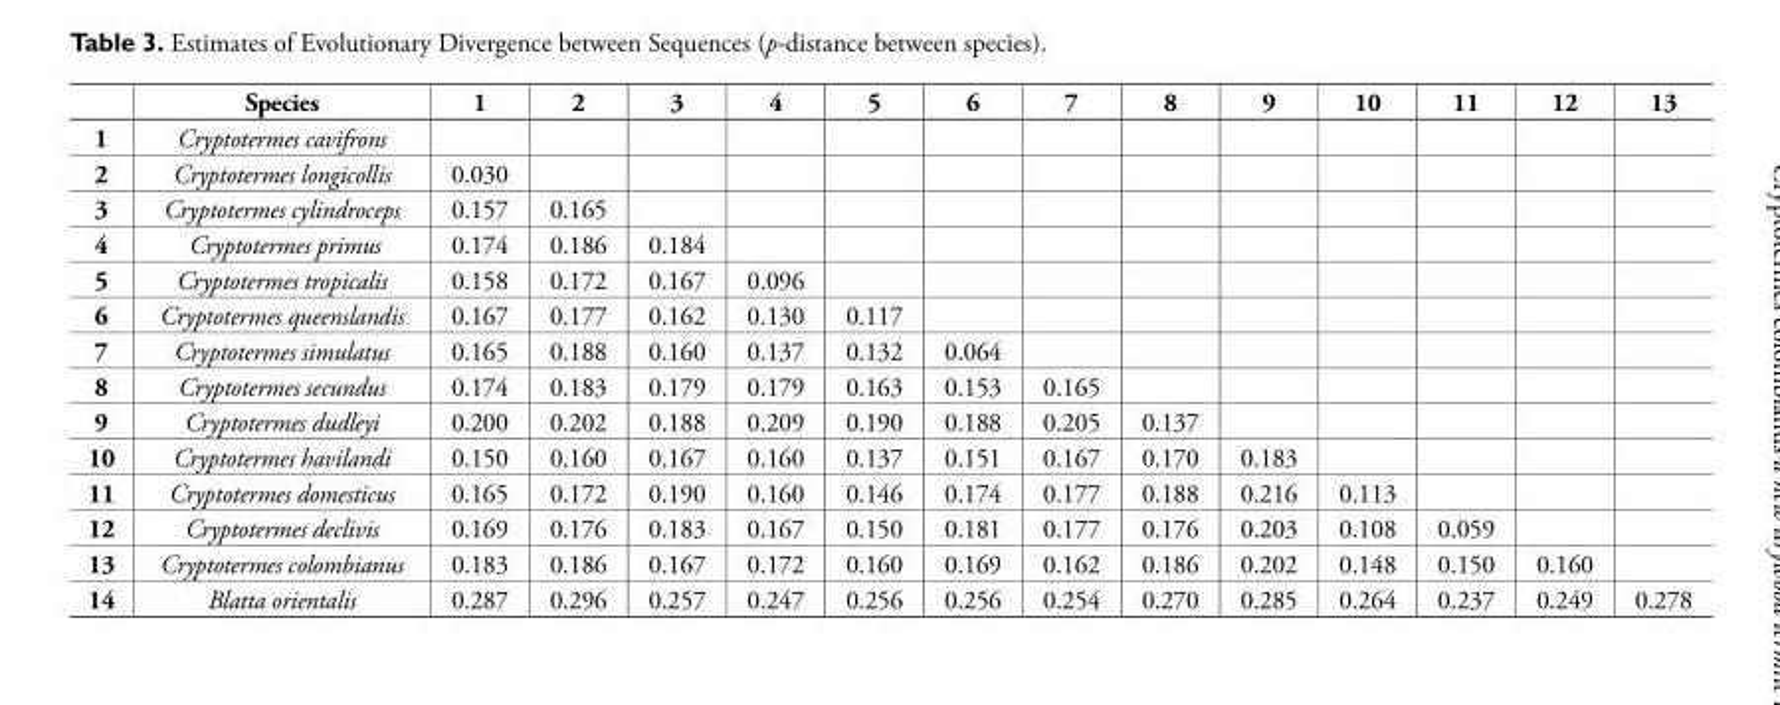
<table><thead><tr><td></td><td>Species</td><td>1</td><td>2</td><td>3</td><td>4</td><td>5</td><td>6</td><td>7</td><td>8</td><td>9</td><td>10</td><td>11</td><td>12</td><td>13</td></tr></thead><tbody><tr><td>1</td><td>Cryptotermes cavifrons</td><td></td><td></td><td></td><td></td><td></td><td></td><td></td><td></td><td></td><td></td><td></td><td></td><td></td></tr><tr><td>2</td><td>Cryptotermes longicollis</td><td>0.030</td><td></td><td></td><td></td><td></td><td></td><td></td><td></td><td></td><td></td><td></td><td></td><td></td></tr><tr><td>3</td><td>Cryptotermes cylindroceps</td><td>0.157</td><td>0.165</td><td></td><td></td><td></td><td></td><td></td><td></td><td></td><td></td><td></td><td></td><td></td></tr><tr><td>4</td><td>Cryptotermes primus</td><td>0.174</td><td>0.186</td><td>0.184</td><td></td><td></td><td></td><td></td><td></td><td></td><td></td><td></td><td></td><td></td></tr><tr><td>5</td><td>Cryptotermes tropicalis</td><td>0.158</td><td>0.172</td><td>0.167</td><td>0.096</td><td></td><td></td><td></td><td></td><td></td><td></td><td></td><td></td><td></td></tr><tr><td>6</td><td>Cryptotermes queenslandis</td><td>0.167</td><td>0.177</td><td>0.162</td><td>0.130</td><td>0.117</td><td></td><td></td><td></td><td></td><td></td><td></td><td></td><td></td></tr><tr><td>7</td><td>Cryptotermes simulatus</td><td>0.165</td><td>0.188</td><td>0.160</td><td>0.137</td><td>0.132</td><td>0.064</td><td></td><td></td><td></td><td></td><td></td><td></td><td></td></tr><tr><td>8</td><td>Cryptotermes secundus</td><td>0.174</td><td>0.183</td><td>0.179</td><td>0.179</td><td>0.163</td><td>0.153</td><td>0.165</td><td></td><td></td><td></td><td></td><td></td><td></td></tr><tr><td>9</td><td>Cryptotermes dudleyi</td><td>0.200</td><td>0.202</td><td>0.188</td><td>0.209</td><td>0.190</td><td>0.188</td><td>0.205</td><td>0.137</td><td></td><td></td><td></td><td></td><td></td></tr><tr><td>10</td><td>Cryptotermes havilandi</td><td>0.150</td><td>0.160</td><td>0.167</td><td>0.160</td><td>0.137</td><td>0.151</td><td>0.167</td><td>0.170</td><td>0.183</td><td></td><td></td><td></td><td></td></tr><tr><td>11</td><td>Cryptotermes domesticus</td><td>0.165</td><td>0.172</td><td>0.190</td><td>0.160</td><td>0.146</td><td>0.174</td><td>0.177</td><td>0.188</td><td>0.216</td><td>0.113</td><td></td><td></td><td></td></tr><tr><td>12</td><td>Cryptotermes declivis</td><td>0.169</td><td>0.176</td><td>0.183</td><td>0.167</td><td>0.150</td><td>0.181</td><td>0.177</td><td>0.176</td><td>0.203</td><td>0.108</td><td>0.059</td><td></td><td></td></tr><tr><td>13</td><td>Cryptotermes colombianus</td><td>0.183</td><td>0.186</td><td>0.167</td><td>0.172</td><td>0.160</td><td>0.169</td><td>0.162</td><td>0.186</td><td>0.202</td><td>0.148</td><td>0.150</td><td>0.160</td><td></td></tr><tr><td>14</td><td>Blatta orientalis</td><td>0.287</td><td>0.296</td><td>0.257</td><td>0.247</td><td>0.256</td><td>0.256</td><td>0.254</td><td>0.270</td><td>0.285</td><td>0.264</td><td>0.237</td><td>0.249</td><td>0.278</td></tr></tbody></table>